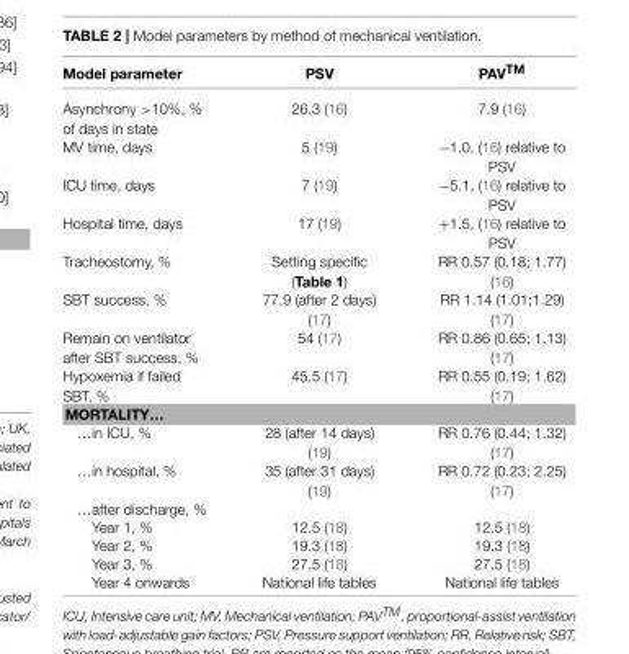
<table><thead><tr><td>Model parameter</td><td>PSV</td><td>PAVTM</td></tr></thead><tbody><tr><td>Asynchrony &gt;10%, % of days in state</td><td>26.3 (16)</td><td>7.9 (16)</td></tr><tr><td>MV time, days</td><td>5 (19)</td><td>−1.0, (16) relative to PSV</td></tr><tr><td>ICU time, days</td><td>7 (19)</td><td>−5.1, (16) relative to PSV</td></tr><tr><td>Hospital time, days</td><td>17 (19)</td><td>+1.5, (16) relative to PSV</td></tr><tr><td>Tracheostomy, %</td><td>Setting specific (Table 1)</td><td>RR 0.57 (0.18; 1.77) (16)</td></tr><tr><td>SBT success, %</td><td>77.9 (after 2 days) (17)</td><td>RR 1.14 (1.01;1.29) (17)</td></tr><tr><td>Remain on ventilator after SBT success, %</td><td>54 (17)</td><td>RR 0.86 (0.65; 1.13) (17)</td></tr><tr><td>Hypoxemia if failed SBT, %</td><td>45.5 (17)</td><td>RR 0.55 (0.19; 1.62) (17)</td></tr><tr><td colspan="3">MORTALITY…</td></tr><tr><td>…in ICU, %</td><td>28 (after 14 days) (19)</td><td>RR 0.76 (0.44; 1.32) (17)</td></tr><tr><td>…in hospital, %</td><td>35 (after 31 days) (19)</td><td>RR 0.72 (0.23; 2.25) (17)</td></tr><tr><td colspan="3">…after discharge, %</td></tr><tr><td>Year 1, %</td><td>12.5 (18)</td><td>12.5 (18)</td></tr><tr><td>Year 2, %</td><td>19.3 (18)</td><td>19.3 (18)</td></tr><tr><td>Year 3, %</td><td>27.5 (18)</td><td>27.5 (18)</td></tr><tr><td>Year 4 onwards</td><td>National life tables</td><td>National life tables</td></tr></tbody></table>